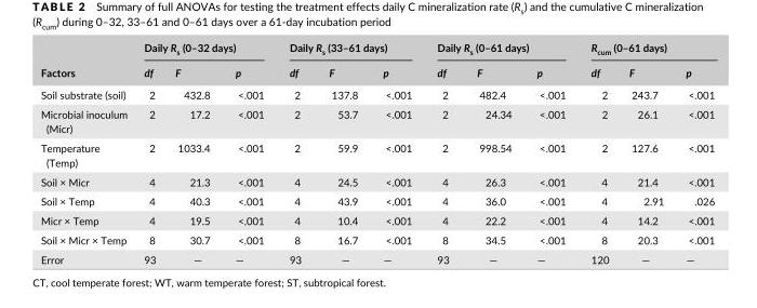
<table><thead><tr><td rowspan="2">Factors</td><td colspan="3">Daily R<sub>s</sub> (0–32 days)</td><td colspan="3">Daily R<sub>s</sub> (33–61 days)</td><td colspan="3">Daily R<sub>s</sub> (0–61 days)</td><td colspan="3">R<sub>cum</sub> (0–61 days)</td></tr><tr><td>df</td><td>F</td><td>p</td><td>df</td><td>F</td><td>p</td><td>df</td><td>F</td><td>p</td><td>df</td><td>F</td><td>p</td></tr></thead><tbody><tr><td>Soil substrate (soil)</td><td>2</td><td>432.8</td><td>&lt;.001</td><td>2</td><td>137.8</td><td>&lt;.001</td><td>2</td><td>482.4</td><td>&lt;.001</td><td>2</td><td>243.7</td><td>&lt;.001</td></tr><tr><td>Microbial inoculum (Micr)</td><td>2</td><td>17.2</td><td>&lt;.001</td><td>2</td><td>53.7</td><td>&lt;.001</td><td>2</td><td>24.34</td><td>&lt;.001</td><td>2</td><td>26.1</td><td>&lt;.001</td></tr><tr><td>Temperature (Temp)</td><td>2</td><td>1033.4</td><td>&lt;.001</td><td>2</td><td>59.9</td><td>&lt;.001</td><td>2</td><td>998.54</td><td>&lt;.001</td><td>2</td><td>127.6</td><td>&lt;.001</td></tr><tr><td>Soil × Micr</td><td>4</td><td>21.3</td><td>&lt;.001</td><td>4</td><td>24.5</td><td>&lt;.001</td><td>4</td><td>26.3</td><td>&lt;.001</td><td>4</td><td>21.4</td><td>&lt;.001</td></tr><tr><td>Soil × Temp</td><td>4</td><td>40.3</td><td>&lt;.001</td><td>4</td><td>43.9</td><td>&lt;.001</td><td>4</td><td>36.0</td><td>&lt;.001</td><td>4</td><td>2.91</td><td>.026</td></tr><tr><td>Micr × Temp</td><td>4</td><td>19.5</td><td>&lt;.001</td><td>4</td><td>10.4</td><td>&lt;.001</td><td>4</td><td>22.2</td><td>&lt;.001</td><td>4</td><td>14.2</td><td>&lt;.001</td></tr><tr><td>Soil × Micr × Temp</td><td>8</td><td>30.7</td><td>&lt;.001</td><td>8</td><td>16.7</td><td>&lt;.001</td><td>8</td><td>34.5</td><td>&lt;.001</td><td>8</td><td>20.3</td><td>&lt;.001</td></tr><tr><td>Error</td><td>93</td><td>—</td><td>—</td><td>93</td><td>—</td><td>—</td><td>93</td><td>—</td><td>—</td><td>120</td><td>—</td><td>—</td></tr></tbody></table>